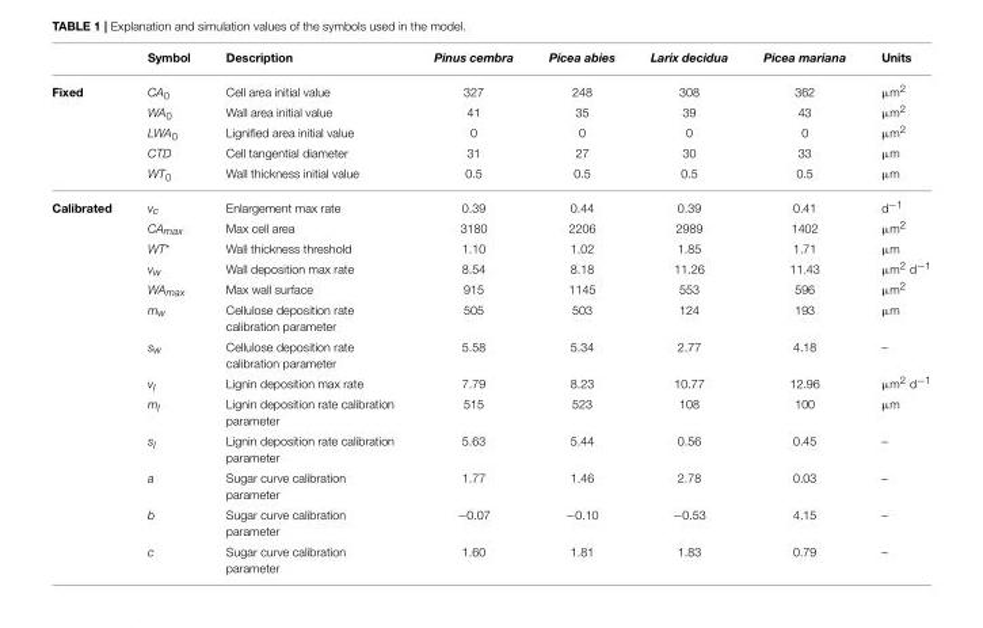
<table><thead><tr><td></td><td>Symbol</td><td>Description</td><td>Pinus cembra</td><td>Picea abies</td><td>Larix decidua</td><td>Picea mariana</td><td>Units</td></tr></thead><tbody><tr><td rowspan="5">Fixed</td><td>CA<sub>0</sub></td><td>Cell area initial value</td><td>327</td><td>248</td><td>308</td><td>362</td><td>µm<sup>2</sup></td></tr><tr><td>WA<sub>0</sub></td><td>Wall area initial value</td><td>41</td><td>35</td><td>39</td><td>43</td><td>µm<sup>2</sup></td></tr><tr><td>LWA<sub>0</sub></td><td>Lignified area initial value</td><td>0</td><td>0</td><td>0</td><td>0</td><td>µm<sup>2</sup></td></tr><tr><td>CTD</td><td>Cell tangential diameter</td><td>31</td><td>27</td><td>30</td><td>33</td><td>µm</td></tr><tr><td>WT<sub>0</sub></td><td>Wall thickness initial value</td><td>0.5</td><td>0.5</td><td>0.5</td><td>0.5</td><td>µm</td></tr><tr><td rowspan="13">Calibrated</td><td>vc</td><td>Enlargement max rate</td><td>0.39</td><td>0.44</td><td>0.39</td><td>0.41</td><td>d<sup>−1</sup></td></tr><tr><td>CAmax</td><td>Max cell area</td><td>3180</td><td>2206</td><td>2989</td><td>1402</td><td>µm<sup>2</sup></td></tr><tr><td>WT*</td><td>Wall thickness threshold</td><td>1.10</td><td>1.02</td><td>1.85</td><td>1.71</td><td>µm</td></tr><tr><td>vw</td><td>Wall deposition max rate</td><td>8.54</td><td>8.18</td><td>11.26</td><td>11.43</td><td>µm<sup>2</sup> d<sup>−1</sup></td></tr><tr><td>WAmax</td><td>Max wall surface</td><td>915</td><td>1145</td><td>553</td><td>596</td><td>µm<sup>2</sup></td></tr><tr><td>mw</td><td>Cellulose deposition rate calibration parameter</td><td>505</td><td>503</td><td>124</td><td>193</td><td>µm</td></tr><tr><td>sw</td><td>Cellulose deposition rate calibration parameter</td><td>5.58</td><td>5.34</td><td>2.77</td><td>4.18</td><td>–</td></tr><tr><td>vl</td><td>Lignin deposition max rate</td><td>7.79</td><td>8.23</td><td>10.77</td><td>12.96</td><td>µm<sup>2</sup> d<sup>−1</sup></td></tr><tr><td>ml</td><td>Lignin deposition rate calibration parameter</td><td>515</td><td>523</td><td>108</td><td>100</td><td>µm</td></tr><tr><td>sl</td><td>Lignin deposition rate calibration parameter</td><td>5.63</td><td>5.44</td><td>0.56</td><td>0.45</td><td>–</td></tr><tr><td>a</td><td>Sugar curve calibration parameter</td><td>1.77</td><td>1.46</td><td>2.78</td><td>0.03</td><td>–</td></tr><tr><td>b</td><td>Sugar curve calibration parameter</td><td>−0.07</td><td>−0.10</td><td>−0.53</td><td>4.15</td><td>–</td></tr><tr><td>c</td><td>Sugar curve calibration parameter</td><td>1.60</td><td>1.81</td><td>1.83</td><td>0.79</td><td>–</td></tr></tbody></table>